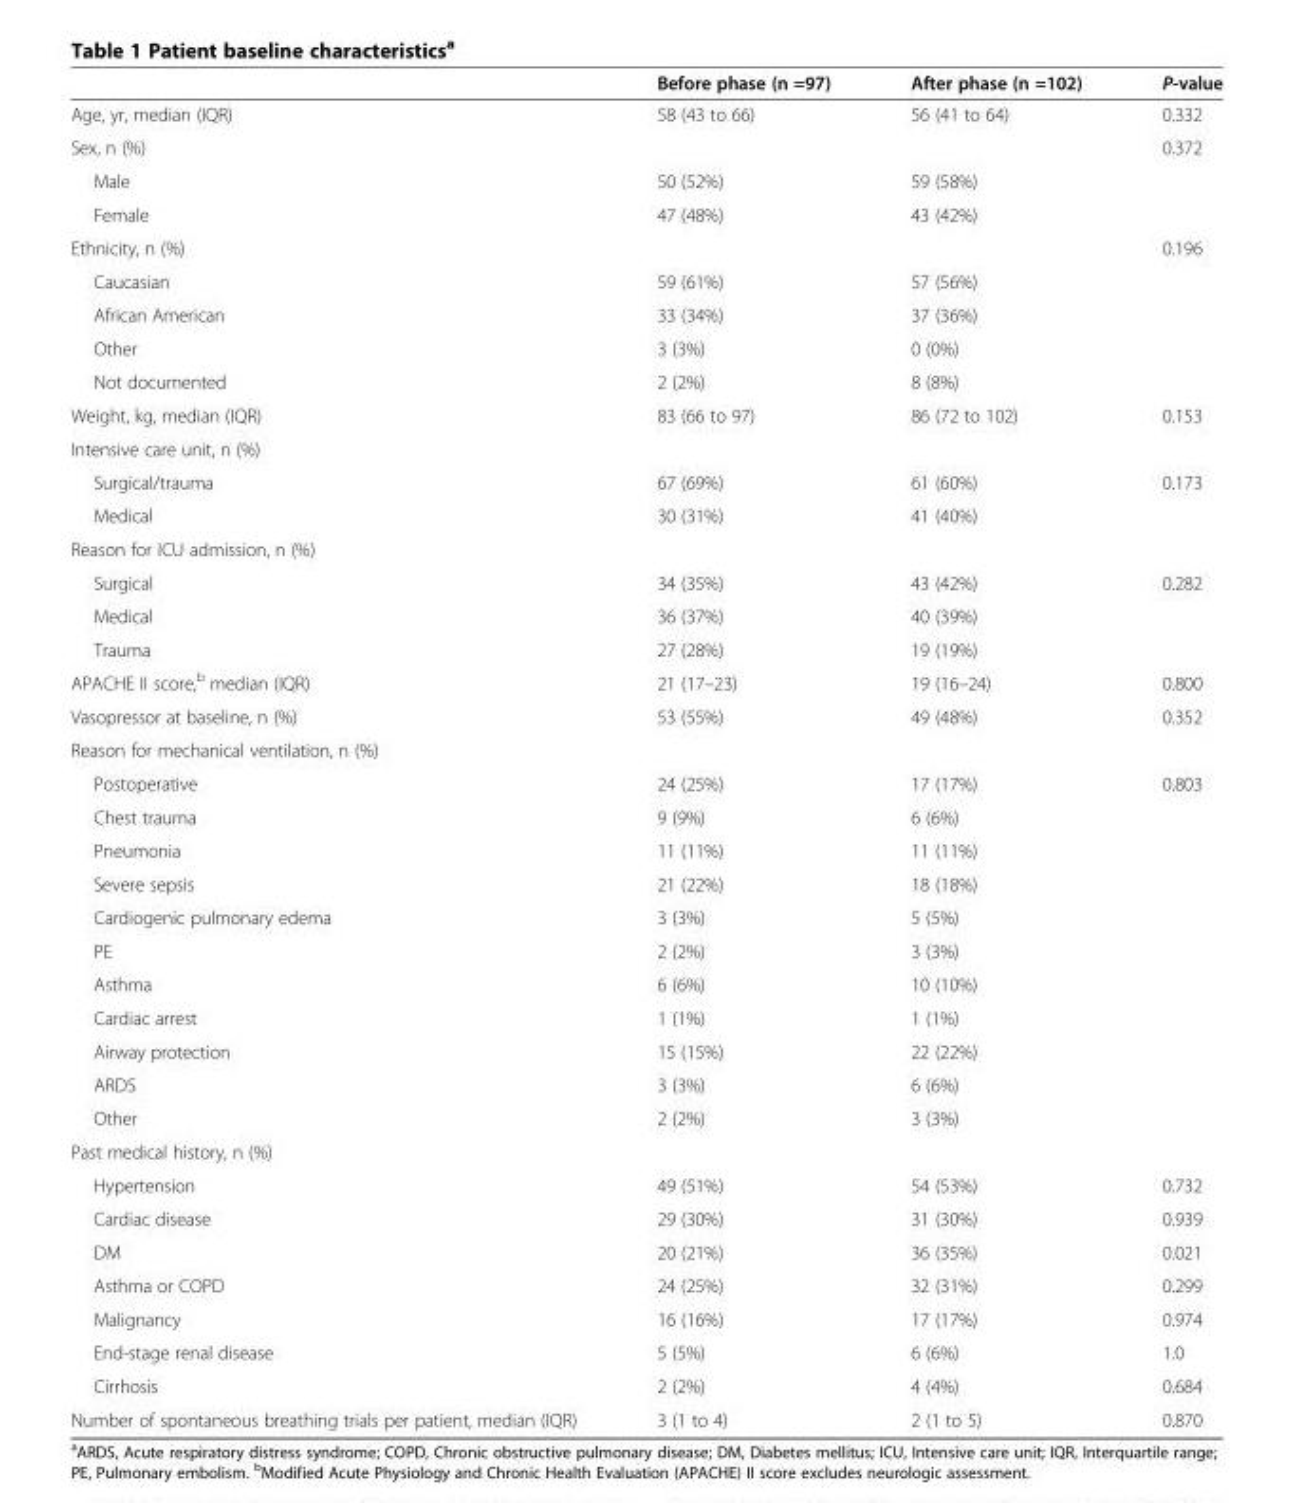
<table><thead><tr><td></td><td>Before phase (n =97)</td><td>After phase (n =102)</td><td>P-value</td></tr></thead><tbody><tr><td>Age, yr, median (IQR)</td><td>58 (43 to 66)</td><td>56 (41 to 64)</td><td>0.332</td></tr><tr><td>Sex, n (%)</td><td></td><td></td><td>0.372</td></tr><tr><td>Male</td><td>50 (52%)</td><td>59 (58%)</td><td rowspan="2"></td></tr><tr><td>Female</td><td>47 (48%)</td><td>43 (42%)</td></tr><tr><td>Ethnicity, n (%)</td><td></td><td></td><td>0.196</td></tr><tr><td>Caucasian</td><td>59 (61%)</td><td>57 (56%)</td><td rowspan="4"></td></tr><tr><td>African American</td><td>33 (34%)</td><td>37 (36%)</td></tr><tr><td>Other</td><td>3 (3%)</td><td>0 (0%)</td></tr><tr><td>Not documented</td><td>2 (2%)</td><td>8 (8%)</td></tr><tr><td>Weight, kg, median (IQR)</td><td>83 (66 to 97)</td><td>86 (72 to 102)</td><td>0.153</td></tr><tr><td colspan="4">Intensive care unit, n (%)</td></tr><tr><td>Surgical/trauma</td><td>67 (69%)</td><td>61 (60%)</td><td rowspan="2">0.173</td></tr><tr><td>Medical</td><td>30 (31%)</td><td>41 (40%)</td></tr><tr><td colspan="4">Reason for ICU admission, n (%)</td></tr><tr><td>Surgical</td><td>34 (35%)</td><td>43 (42%)</td><td>0.282</td></tr><tr><td>Medical</td><td>36 (37%)</td><td>40 (39%)</td><td rowspan="2"></td></tr><tr><td>Trauma</td><td>27 (28%)</td><td>19 (19%)</td></tr><tr><td>APACHE II score,<sup>b</sup> median (IQR)</td><td>21 (17–23)</td><td>19 (16–24)</td><td>0.800</td></tr><tr><td>Vasopressor at baseline, n (%)</td><td>53 (55%)</td><td>49 (48%)</td><td>0.352</td></tr><tr><td colspan="4">Reason for mechanical ventilation, n (%)</td></tr><tr><td>Postoperative</td><td>24 (25%)</td><td>17 (17%)</td><td>0.803</td></tr><tr><td>Chest trauma</td><td>9 (9%)</td><td>6 (6%)</td><td rowspan="10"></td></tr><tr><td>Pneumonia</td><td>11 (11%)</td><td>11 (11%)</td></tr><tr><td>Severe sepsis</td><td>21 (22%)</td><td>18 (18%)</td></tr><tr><td>Cardiogenic pulmonary edema</td><td>3 (3%)</td><td>5 (5%)</td></tr><tr><td>PE</td><td>2 (2%)</td><td>3 (3%)</td></tr><tr><td>Asthma</td><td>6 (6%)</td><td>10 (10%)</td></tr><tr><td>Cardiac arrest</td><td>1 (1%)</td><td>1 (1%)</td></tr><tr><td>Airway protection</td><td>15 (15%)</td><td>22 (22%)</td></tr><tr><td>ARDS</td><td>3 (3%)</td><td>6 (6%)</td></tr><tr><td>Other</td><td>2 (2%)</td><td>3 (3%)</td></tr><tr><td colspan="4">Past medical history, n (%)</td></tr><tr><td>Hypertension</td><td>49 (51%)</td><td>54 (53%)</td><td>0.732</td></tr><tr><td>Cardiac disease</td><td>29 (30%)</td><td>31 (30%)</td><td>0.939</td></tr><tr><td>DM</td><td>20 (21%)</td><td>36 (35%)</td><td>0.021</td></tr><tr><td>Asthma or COPD</td><td>24 (25%)</td><td>32 (31%)</td><td>0.299</td></tr><tr><td>Malignancy</td><td>16 (16%)</td><td>17 (17%)</td><td>0.974</td></tr><tr><td>End-stage renal disease</td><td>5 (5%)</td><td>6 (6%)</td><td>1.0</td></tr><tr><td>Cirrhosis</td><td>2 (2%)</td><td>4 (4%)</td><td>0.684</td></tr><tr><td>Number of spontaneous breathing trials per patient, median (IQR)</td><td>3 (1 to 4)</td><td>2 (1 to 5)</td><td>0.870</td></tr></tbody></table>